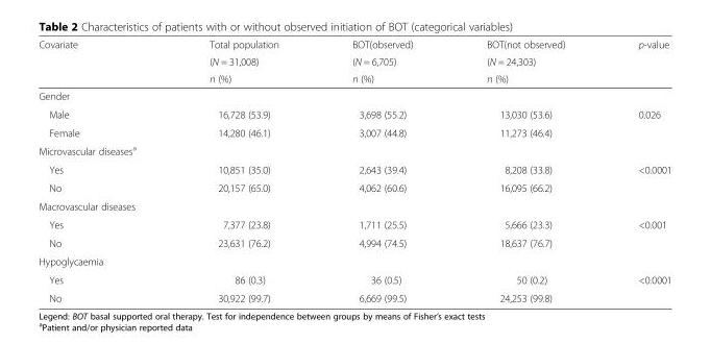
<table><thead><tr><td rowspan="3">Covariate</td><td rowspan="3">Total population (N = 31,008) n (%)</td><td rowspan="3">BOT(observed) (N = 6,705) n (%)</td><td rowspan="3">BOT(not observed) (N = 24,303) n (%)</td><td rowspan="3">p-value</td></tr><tr></tr><tr></tr></thead><tbody><tr><td colspan="5">Gender</td></tr><tr><td>Male</td><td>16,728 (53.9)</td><td>3,698 (55.2)</td><td>13,030 (53.6)</td><td rowspan="2">0.026</td></tr><tr><td>Female</td><td>14,280 (46.1)</td><td>3,007 (44.8)</td><td>11,273 (46.4)</td></tr><tr><td colspan="5">Microvascular diseases<sup>a</sup></td></tr><tr><td>Yes</td><td>10,851 (35.0)</td><td>2,643 (39.4)</td><td>8,208 (33.8)</td><td rowspan="2">&lt;0.0001</td></tr><tr><td>No</td><td>20,157 (65.0)</td><td>4,062 (60.6)</td><td>16,095 (66.2)</td></tr><tr><td colspan="5">Macrovascular diseases</td></tr><tr><td>Yes</td><td>7,377 (23.8)</td><td>1,711 (25.5)</td><td>5,666 (23.3)</td><td rowspan="2">&lt;0.001</td></tr><tr><td>No</td><td>23,631 (76.2)</td><td>4,994 (74.5)</td><td>18,637 (76.7)</td></tr><tr><td colspan="5">Hypoglycaemia</td></tr><tr><td>Yes</td><td>86 (0.3)</td><td>36 (0.5)</td><td>50 (0.2)</td><td rowspan="2">&lt;0.0001</td></tr><tr><td>No</td><td>30,922 (99.7)</td><td>6,669 (99.5)</td><td>24,253 (99.8)</td></tr></tbody></table>